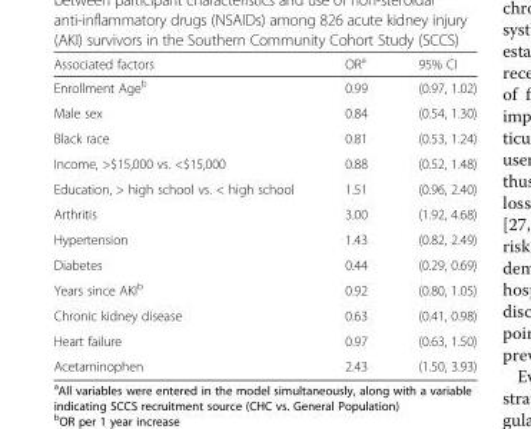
<table><thead><tr><td>Associated factors</td><td>OR<sup>a</sup></td><td>95% CI</td></tr></thead><tbody><tr><td>Enrollment Age<sup>b</sup></td><td>0.99</td><td>(0.97, 1.02)</td></tr><tr><td>Male sex</td><td>0.84</td><td>(0.54, 1.30)</td></tr><tr><td>Black race</td><td>0.81</td><td>(0.53, 1.24)</td></tr><tr><td>Income, &gt;$15,000 vs. &lt;$15,000</td><td>0.88</td><td>(0.52, 1.48)</td></tr><tr><td>Education, &gt; high school vs. &lt; high school</td><td>1.51</td><td>(0.96, 2.40)</td></tr><tr><td>Arthritis</td><td>3.00</td><td>(1.92, 4.68)</td></tr><tr><td>Hypertension</td><td>1.43</td><td>(0.82, 2.49)</td></tr><tr><td>Diabetes</td><td>0.44</td><td>(0.29, 0.69)</td></tr><tr><td>Years since AKI<sup>b</sup></td><td>0.92</td><td>(0.80, 1.05)</td></tr><tr><td>Chronic kidney disease</td><td>0.63</td><td>(0.41, 0.98)</td></tr><tr><td>Heart failure</td><td>0.97</td><td>(0.63, 1.50)</td></tr><tr><td>Acetaminophen</td><td>2.43</td><td>(1.50, 3.93)</td></tr></tbody></table>